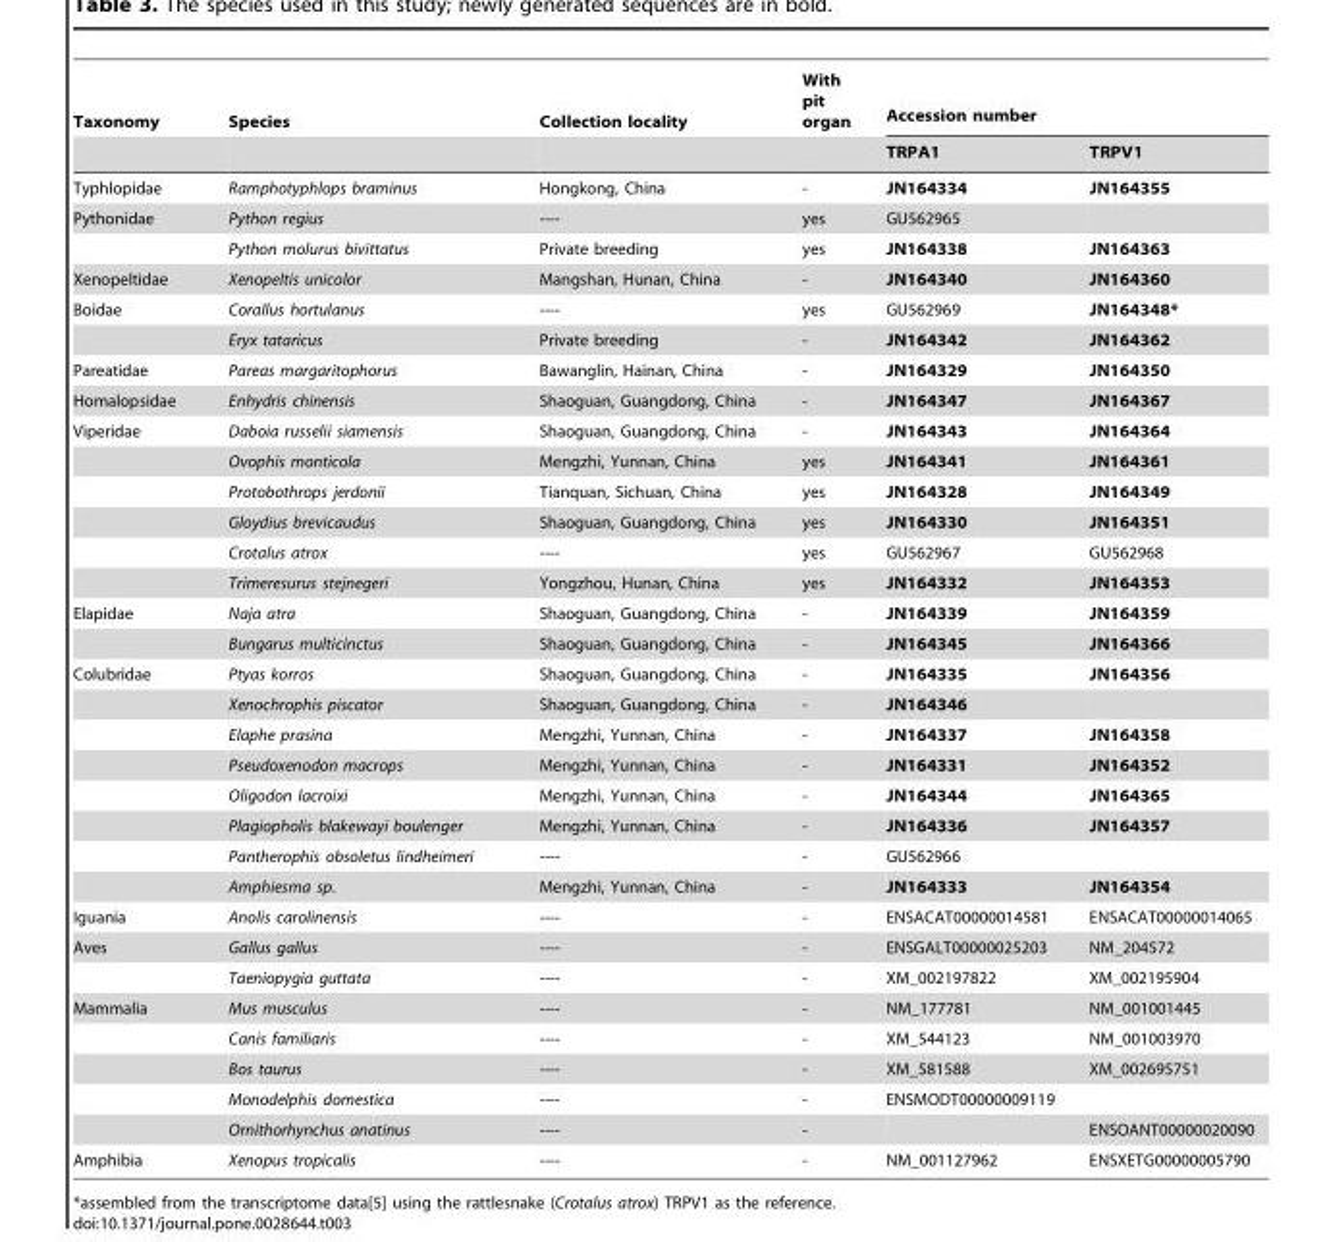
<table><thead><tr><td rowspan="2">Taxonomy</td><td rowspan="2">Species</td><td rowspan="2">Collection locality</td><td rowspan="2">With pit organ</td><td colspan="2">Accession number</td></tr><tr><td>TRPA1</td><td>TRPV1</td></tr></thead><tbody><tr><td>Typhlopidae</td><td>Ramphotyphlops braminus</td><td>Hongkong, China</td><td>-</td><td>JN164334</td><td>JN164355</td></tr><tr><td rowspan="2">Pythonidae</td><td>Python regius</td><td>----</td><td>yes</td><td>GU562965</td><td></td></tr><tr><td>Python molurus bivittatus</td><td>Private breeding</td><td>yes</td><td>JN164338</td><td>JN164363</td></tr><tr><td>Xenopeltidae</td><td>Xenopeltis unicolor</td><td>Mangshan, Hunan, China</td><td>-</td><td>JN164340</td><td>JN164360</td></tr><tr><td rowspan="2">Boidae</td><td>Corallus hortulanus</td><td>----</td><td>yes</td><td>GU562969</td><td>JN164348*</td></tr><tr><td>Eryx tataricus</td><td>Private breeding</td><td>-</td><td>JN164342</td><td>JN164362</td></tr><tr><td>Pareatidae</td><td>Pareas margaritophorus</td><td>Bawanglin, Hainan, China</td><td>-</td><td>JN164329</td><td>JN164350</td></tr><tr><td>Homalopsidae</td><td>Enhydris chinensis</td><td>Shaoguan, Guangdong, China</td><td>-</td><td>JN164347</td><td>JN164367</td></tr><tr><td rowspan="6">Viperidae</td><td>Daboia russelii siamensis</td><td>Shaoguan, Guangdong, China</td><td>-</td><td>JN164343</td><td>JN164364</td></tr><tr><td>Ovophis monticola</td><td>Mengzhi, Yunnan, China</td><td>yes</td><td>JN164341</td><td>JN164361</td></tr><tr><td>Protobothrops jerdonii</td><td>Tianquan, Sichuan, China</td><td>yes</td><td>JN164328</td><td>JN164349</td></tr><tr><td>Gloydius brevicaudus</td><td>Shaoguan, Guangdong, China</td><td>yes</td><td>JN164330</td><td>JN164351</td></tr><tr><td>Crotalus atrox</td><td>----</td><td>yes</td><td>GU562967</td><td>GU562968</td></tr><tr><td>Trimeresurus stejnegeri</td><td>Yongzhou, Hunan, China</td><td>yes</td><td>JN164332</td><td>JN164353</td></tr><tr><td rowspan="2">Elapidae</td><td>Naja atra</td><td>Shaoguan, Guangdong, China</td><td>-</td><td>JN164339</td><td>JN164359</td></tr><tr><td>Bungarus multicinctus</td><td>Shaoguan, Guangdong, China</td><td>-</td><td>JN164345</td><td>JN164366</td></tr><tr><td rowspan="8">Colubridae</td><td>Ptyas korros</td><td>Shaoguan, Guangdong, China</td><td>-</td><td>JN164335</td><td>JN164356</td></tr><tr><td>Xenochrophis piscator</td><td>Shaoguan, Guangdong, China</td><td>-</td><td>JN164346</td><td></td></tr><tr><td>Elaphe prasina</td><td>Mengzhi, Yunnan, China</td><td>-</td><td>JN164337</td><td>JN164358</td></tr><tr><td>Pseudoxenodon macrops</td><td>Mengzhi, Yunnan, China</td><td>-</td><td>JN164331</td><td>JN164352</td></tr><tr><td>Oligodon lacroixi</td><td>Mengzhi, Yunnan, China</td><td>-</td><td>JN164344</td><td>JN164365</td></tr><tr><td>Plagiopholis blakewayi boulenger</td><td>Mengzhi, Yunnan, China</td><td>-</td><td>JN164336</td><td>JN164357</td></tr><tr><td>Pantherophis obsoletus lindheimeri</td><td>----</td><td>-</td><td>GU562966</td><td></td></tr><tr><td>Amphiesma sp.</td><td>Mengzhi, Yunnan, China</td><td>-</td><td>JN164333</td><td>JN164354</td></tr><tr><td>Iguania</td><td>Anolis carolinensis</td><td>----</td><td>-</td><td>ENSACAT00000014581</td><td>ENSACAT00000014065</td></tr><tr><td rowspan="2">Aves</td><td>Gallus gallus</td><td>----</td><td>-</td><td>ENSGALT00000025203</td><td>NM_204572</td></tr><tr><td>Taeniopygia guttata</td><td>----</td><td>-</td><td>XM_002197822</td><td>XM_002195904</td></tr><tr><td rowspan="5">Mammalia</td><td>Mus musculus</td><td>----</td><td>-</td><td>NM_177781</td><td>NM_001001445</td></tr><tr><td>Canis familiaris</td><td>----</td><td>-</td><td>XM_544123</td><td>NM_001003970</td></tr><tr><td>Bos taurus</td><td>----</td><td>-</td><td>XM_581588</td><td>XM_002695751</td></tr><tr><td>Monodelphis domestica</td><td>----</td><td>-</td><td>ENSMODT00000009119</td><td></td></tr><tr><td>Ornithorhynchus anatinus</td><td>----</td><td>-</td><td></td><td>ENSOANT00000020090</td></tr><tr><td>Amphibia</td><td>Xenopus tropicalis</td><td>----</td><td>-</td><td>NM_001127962</td><td>ENSXETG00000005790</td></tr></tbody></table>